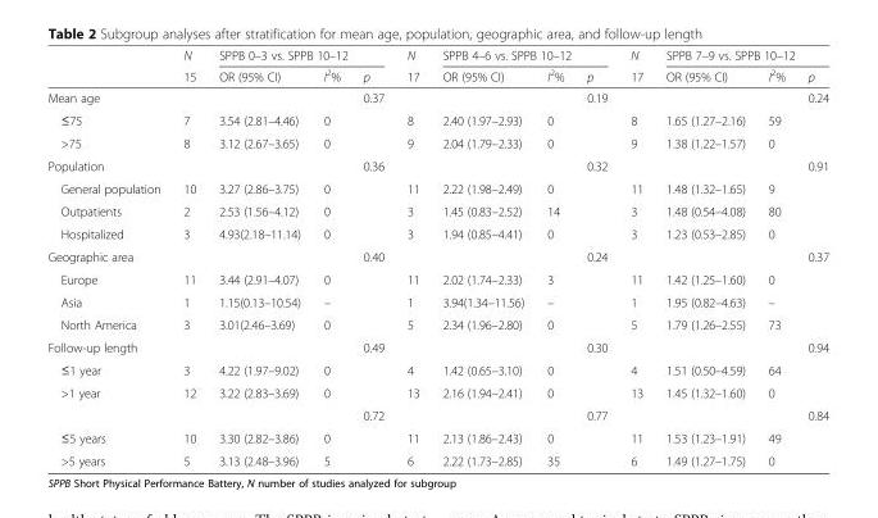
<table><thead><tr><td rowspan="2"></td><td rowspan="2">N 15</td><td colspan="3">SPPB 0–3 vs. SPPB 10–12</td><td rowspan="2">N 17</td><td colspan="3">SPPB 4–6 vs. SPPB 10–12</td><td rowspan="2">N 17</td><td colspan="3">SPPB 7–9 vs. SPPB 10–12</td></tr><tr><td>OR (95% CI)</td><td>I<sup>2</sup>%</td><td>p</td><td>OR (95% CI)</td><td>I<sup>2</sup>%</td><td>p</td><td>OR (95% CI)</td><td>I<sup>2</sup>%</td><td>p</td></tr></thead><tbody><tr><td>Mean age</td><td></td><td></td><td></td><td>0.37</td><td></td><td></td><td></td><td>0.19</td><td></td><td></td><td></td><td>0.24</td></tr><tr><td>≤75</td><td>7</td><td>3.54 (2.81–4.46)</td><td>0</td><td></td><td>8</td><td>2.40 (1.97–2.93)</td><td>0</td><td></td><td>8</td><td>1.65 (1.27–2.16)</td><td>59</td><td></td></tr><tr><td>&gt;75</td><td>8</td><td>3.12 (2.67–3.65)</td><td>0</td><td></td><td>9</td><td>2.04 (1.79–2.33)</td><td>0</td><td></td><td>9</td><td>1.38 (1.22–1.57)</td><td>0</td><td></td></tr><tr><td>Population</td><td></td><td></td><td></td><td>0.36</td><td></td><td></td><td></td><td>0.32</td><td></td><td></td><td></td><td>0.91</td></tr><tr><td>General population</td><td>10</td><td>3.27 (2.86–3.75)</td><td>0</td><td></td><td>11</td><td>2.22 (1.98–2.49)</td><td>0</td><td></td><td>11</td><td>1.48 (1.32–1.65)</td><td>9</td><td></td></tr><tr><td>Outpatients</td><td>2</td><td>2.53 (1.56–4.12)</td><td>0</td><td></td><td>3</td><td>1.45 (0.83–2.52)</td><td>14</td><td></td><td>3</td><td>1.48 (0.54–4.08)</td><td>80</td><td></td></tr><tr><td>Hospitalized</td><td>3</td><td>4.93(2.18–11.14)</td><td>0</td><td></td><td>3</td><td>1.94 (0.85–4.41)</td><td>0</td><td></td><td>3</td><td>1.23 (0.53–2.85)</td><td>0</td><td></td></tr><tr><td>Geographic area</td><td></td><td></td><td></td><td>0.40</td><td></td><td></td><td></td><td>0.24</td><td></td><td></td><td></td><td>0.37</td></tr><tr><td>Europe</td><td>11</td><td>3.44 (2.91–4.07)</td><td>0</td><td></td><td>11</td><td>2.02 (1.74–2.33)</td><td>3</td><td></td><td>11</td><td>1.42 (1.25–1.60)</td><td>0</td><td></td></tr><tr><td>Asia</td><td>1</td><td>1.15(0.13–10.54)</td><td>–</td><td></td><td>1</td><td>3.94(1.34–11.56)</td><td>–</td><td></td><td>1</td><td>1.95 (0.82–4.63)</td><td>–</td><td></td></tr><tr><td>North America</td><td>3</td><td>3.01(2.46–3.69)</td><td>0</td><td></td><td>5</td><td>2.34 (1.96–2.80)</td><td>0</td><td></td><td>5</td><td>1.79 (1.26–2.55)</td><td>73</td><td></td></tr><tr><td>Follow-up length</td><td></td><td></td><td></td><td>0.49</td><td></td><td></td><td></td><td>0.30</td><td></td><td></td><td></td><td>0.94</td></tr><tr><td>≤1 year</td><td>3</td><td>4.22 (1.97–9.02)</td><td>0</td><td></td><td>4</td><td>1.42 (0.65–3.10)</td><td>0</td><td></td><td>4</td><td>1.51 (0.50–4.59)</td><td>64</td><td></td></tr><tr><td rowspan="2">&gt;1 year</td><td>12</td><td>3.22 (2.83–3.69)</td><td>0</td><td></td><td>13</td><td>2.16 (1.94–2.41)</td><td>0</td><td></td><td>13</td><td>1.45 (1.32–1.60)</td><td>0</td><td></td></tr><tr><td></td><td></td><td></td><td>0.72</td><td></td><td></td><td></td><td>0.77</td><td></td><td></td><td></td><td>0.84</td></tr><tr><td>≤5 years</td><td>10</td><td>3.30 (2.82–3.86)</td><td>0</td><td></td><td>11</td><td>2.13 (1.86–2.43)</td><td>0</td><td></td><td>11</td><td>1.53 (1.23–1.91)</td><td>49</td><td></td></tr><tr><td>&gt;5 years</td><td>5</td><td>3.13 (2.48–3.96)</td><td>5</td><td></td><td>6</td><td>2.22 (1.73–2.85)</td><td>35</td><td></td><td>6</td><td>1.49 (1.27–1.75)</td><td>0</td><td></td></tr></tbody></table>